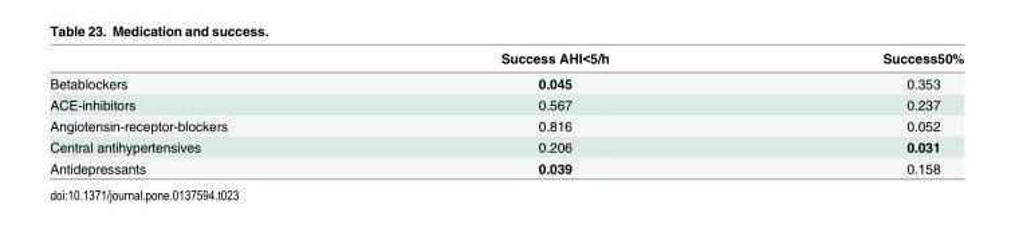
<table><thead><tr><td></td><td>Success AHI&lt;5/h</td><td>Success50%</td></tr></thead><tbody><tr><td>Betablockers</td><td>0.045</td><td>0.353</td></tr><tr><td>ACE-inhibitors</td><td>0.567</td><td>0.237</td></tr><tr><td>Angiotensin-receptor-blockers</td><td>0.816</td><td>0.052</td></tr><tr><td>Central antihypertensives</td><td>0.206</td><td>0.031</td></tr><tr><td>Antidepressants</td><td>0.039</td><td>0.158</td></tr></tbody></table>